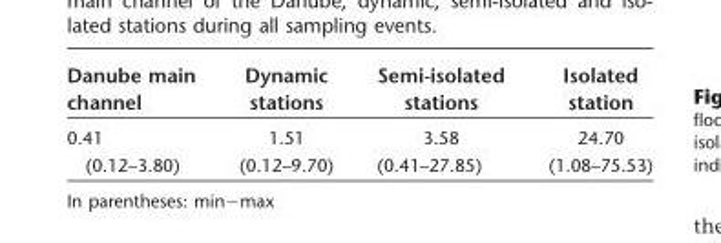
<table><thead><tr><td>Danube main channel</td><td>Dynamic stations</td><td>Semi-isolated stations</td><td>Isolated station</td></tr></thead><tbody><tr><td>0.41 (0.12–3.80)</td><td>1.51 (0.12–9.70)</td><td>3.58 (0.41–27.85)</td><td>24.70 (1.08–75.53)</td></tr></tbody></table>